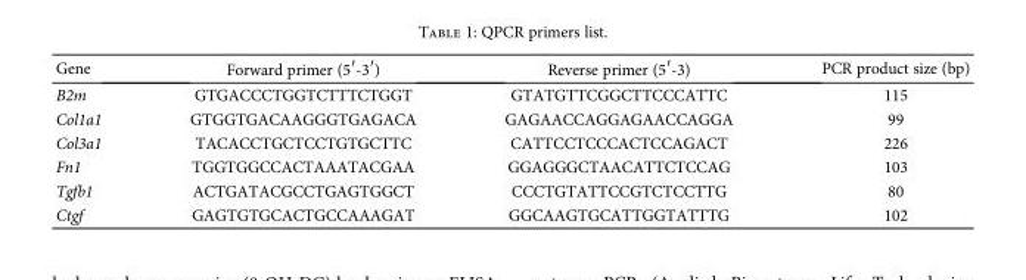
<table><thead><tr><td>Gene</td><td>Forward primer (5′-3′)</td><td>Reverse primer (5′-3)</td><td>PCR product size (bp)</td></tr></thead><tbody><tr><td>B2m</td><td>GTGACCCTGGTCTTTCTGGT</td><td>GTATGTTCGGCTTCCCATTC</td><td>115</td></tr><tr><td>Col1a1</td><td>GTGGTGACAAGGGTGAGACA</td><td>GAGAACCAGGAGAACCAGGA</td><td>99</td></tr><tr><td>Col3a1</td><td>TACACCTGCTCCTGTGCTTC</td><td>CATTCCTCCCACTCCAGACT</td><td>226</td></tr><tr><td>Fn1</td><td>TGGTGGCCACTAAATACGAA</td><td>GGAGGGCTAACATTCTCCAG</td><td>103</td></tr><tr><td>Tgfb1</td><td>ACTGATACGCCTGAGTGGCT</td><td>CCCTGTATTCCGTCTCCTTG</td><td>80</td></tr><tr><td>Ctgf</td><td>GAGTGTGCACTGCCAAAGAT</td><td>GGCAAGTGCATTGGTATTTG</td><td>102</td></tr></tbody></table>